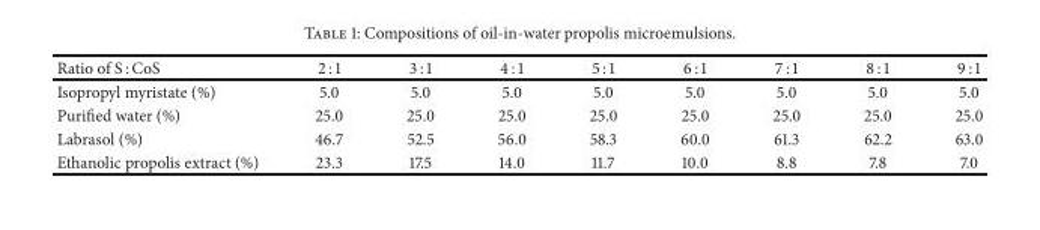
<table><thead><tr><td>Ratio of S : CoS</td><td>2 : 1</td><td>3 : 1</td><td>4 : 1</td><td>5 : 1</td><td>6 : 1</td><td>7 : 1</td><td>8 : 1</td><td>9 : 1</td></tr></thead><tbody><tr><td>Isopropyl myristate (%)</td><td>5.0</td><td>5.0</td><td>5.0</td><td>5.0</td><td>5.0</td><td>5.0</td><td>5.0</td><td>5.0</td></tr><tr><td>Purified water (%)</td><td>25.0</td><td>25.0</td><td>25.0</td><td>25.0</td><td>25.0</td><td>25.0</td><td>25.0</td><td>25.0</td></tr><tr><td>Labrasol (%)</td><td>46.7</td><td>52.5</td><td>56.0</td><td>58.3</td><td>60.0</td><td>61.3</td><td>62.2</td><td>63.0</td></tr><tr><td>Ethanolic propolis extract (%)</td><td>23.3</td><td>17.5</td><td>14.0</td><td>11.7</td><td>10.0</td><td>8.8</td><td>7.8</td><td>7.0</td></tr></tbody></table>